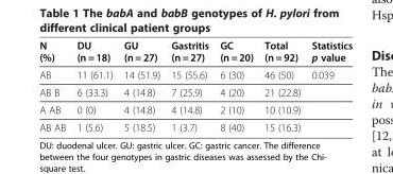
<table><thead><tr><td>N (%)</td><td>DU (n = 18)</td><td>GU (n = 27)</td><td>Gastritis (n = 27)</td><td>GC (n = 20)</td><td>Total (n = 92)</td><td>Statistics p value</td></tr></thead><tbody><tr><td>AB</td><td>11 (61.1)</td><td>14 (51.9)</td><td>15 (55.6)</td><td>6 (30)</td><td>46 (50)</td><td>0.039</td></tr><tr><td>AB B</td><td>6 (33.3)</td><td>4 (14.8)</td><td>7 (25.9)</td><td>4 (20)</td><td>21 (22.8)</td><td></td></tr><tr><td>A AB</td><td>0 (0)</td><td>4 (14.8)</td><td>4 (14.8)</td><td>2 (10)</td><td>10 (10.9)</td><td></td></tr><tr><td>AB AB</td><td>1 (5.6)</td><td>5 (18.5)</td><td>1 (3.7)</td><td>8 (40)</td><td>15 (16.3)</td><td></td></tr></tbody></table>